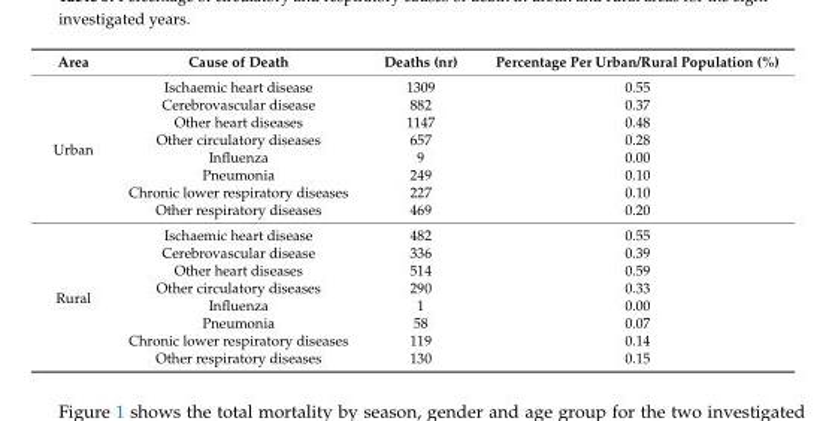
<table><thead><tr><td>Area</td><td>Cause of Death</td><td>Deaths (nr)</td><td>Percentage Per Urban/Rural Population (%)</td></tr></thead><tbody><tr><td rowspan="8">Urban</td><td>Ischaemic heart disease</td><td>1309</td><td>0.55</td></tr><tr><td>Cerebrovascular disease</td><td>882</td><td>0.37</td></tr><tr><td>Other heart diseases</td><td>1147</td><td>0.48</td></tr><tr><td>Other circulatory diseases</td><td>657</td><td>0.28</td></tr><tr><td>Influenza</td><td>9</td><td>0.00</td></tr><tr><td>Pneumonia</td><td>249</td><td>0.10</td></tr><tr><td>Chronic lower respiratory diseases</td><td>227</td><td>0.10</td></tr><tr><td>Other respiratory diseases</td><td>469</td><td>0.20</td></tr><tr><td rowspan="8">Rural</td><td>Ischaemic heart disease</td><td>482</td><td>0.55</td></tr><tr><td>Cerebrovascular disease</td><td>336</td><td>0.39</td></tr><tr><td>Other heart diseases</td><td>514</td><td>0.59</td></tr><tr><td>Other circulatory diseases</td><td>290</td><td>0.33</td></tr><tr><td>Influenza</td><td>1</td><td>0.00</td></tr><tr><td>Pneumonia</td><td>58</td><td>0.07</td></tr><tr><td>Chronic lower respiratory diseases</td><td>119</td><td>0.14</td></tr><tr><td>Other respiratory diseases</td><td>130</td><td>0.15</td></tr></tbody></table>